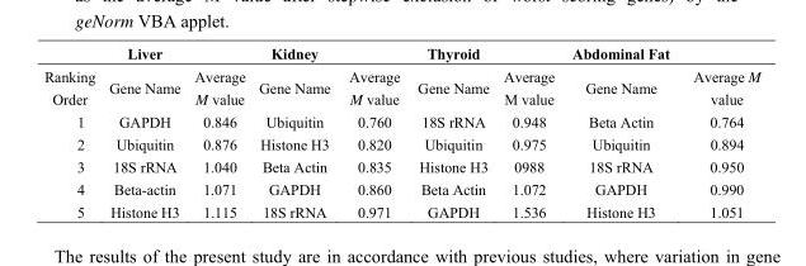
<table><thead><tr><td rowspan="2">Ranking Order</td><td rowspan="2">Liver Gene Name</td><td rowspan="2">Average M value</td><td rowspan="2">Kidney Gene Name</td><td rowspan="2">Average M value</td><td rowspan="2">Thyroid Gene Name</td><td rowspan="2">Average M value</td><td rowspan="2">Abdominal Fat Gene Name</td><td rowspan="2">Average M value</td></tr><tr></tr></thead><tbody><tr><td>1</td><td>GAPDH</td><td>0.846</td><td>Ubiquitin</td><td>0.760</td><td>18S rRNA</td><td>0.948</td><td>Beta Actin</td><td>0.764</td></tr><tr><td>2</td><td>Ubiquitin</td><td>0.876</td><td>Histone H3</td><td>0.820</td><td>Ubiquitin</td><td>0.975</td><td>Ubiquitin</td><td>0.894</td></tr><tr><td>3</td><td>18S rRNA</td><td>1.040</td><td>Beta Actin</td><td>0.835</td><td>Histone H3</td><td>0988</td><td>18S rRNA</td><td>0.950</td></tr><tr><td>4</td><td>Beta-actin</td><td>1.071</td><td>GAPDH</td><td>0.860</td><td>Beta Actin</td><td>1.072</td><td>GAPDH</td><td>0.990</td></tr><tr><td>5</td><td>Histone H3</td><td>1.115</td><td>18S rRNA</td><td>0.971</td><td>GAPDH</td><td>1.536</td><td>Histone H3</td><td>1.051</td></tr></tbody></table>